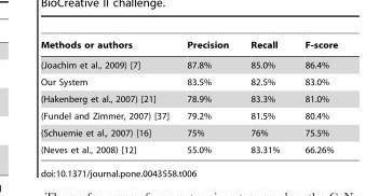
<table><thead><tr><td>Methods or authors</td><td>Precision</td><td>Recall</td><td>F-score</td></tr></thead><tbody><tr><td>(Joachim et al., 2009) [7]</td><td>87.8%</td><td>85.0%</td><td>86.4%</td></tr><tr><td>Our System</td><td>83.5%</td><td>82.5%</td><td>83.0%</td></tr><tr><td>(Hakenberg et al., 2007) [21]</td><td>78.9%</td><td>83.3%</td><td>81.0%</td></tr><tr><td>(Fundel and Zimmer, 2007) [37]</td><td>79.2%</td><td>81.5%</td><td>80.4%</td></tr><tr><td>(Schuemie et al., 2007) [16]</td><td>75%</td><td>76%</td><td>75.5%</td></tr><tr><td>(Neves et al., 2008) [12]</td><td>55.0%</td><td>83.31%</td><td>66.26%</td></tr></tbody></table>